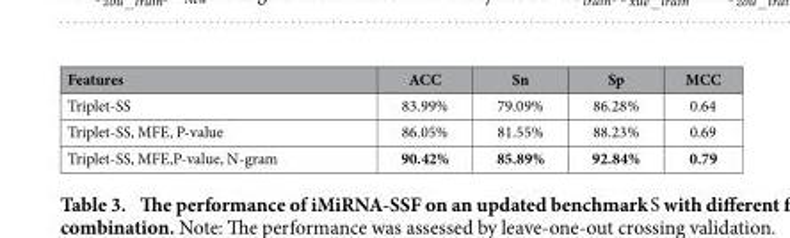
<table><thead><tr><td>Features</td><td>ACC</td><td>Sn</td><td>Sp</td><td>MCC</td></tr></thead><tbody><tr><td>Triplet-SS</td><td>83.99%</td><td>79.09%</td><td>86.28%</td><td>0.64</td></tr><tr><td>Triplet-SS, MFE, P-value</td><td>86.05%</td><td>81.55%</td><td>88.23%</td><td>0.69</td></tr><tr><td>Triplet-SS, MFE,P-value, N-gram</td><td>90.42%</td><td>85.89%</td><td>92.84%</td><td>0.79</td></tr></tbody></table>